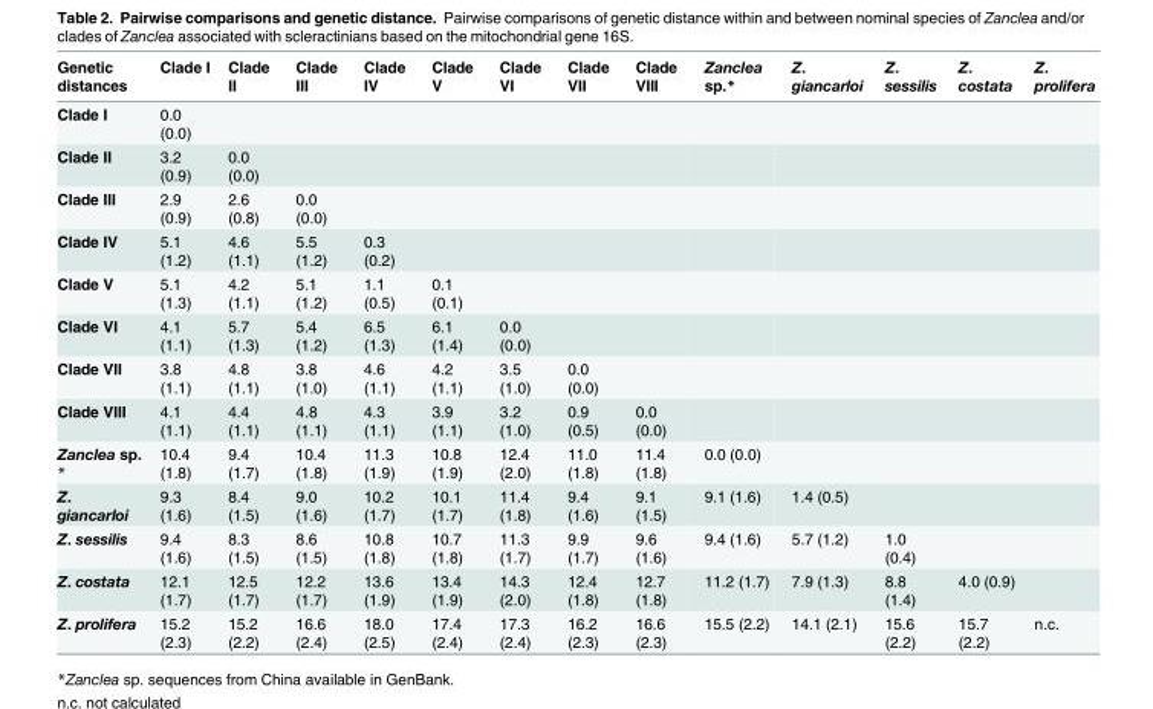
<table><thead><tr><td>Genetic distances</td><td>Clade I</td><td>Clade II</td><td>Clade III</td><td>Clade IV</td><td>Clade V</td><td>Clade VI</td><td>Clade VII</td><td>Clade VIII</td><td>Zanclea sp.*</td><td>Z. giancarloi</td><td>Z. sessilis</td><td>Z. costata</td><td>Z. prolifera</td></tr></thead><tbody><tr><td>Clade I</td><td>0.0 (0.0)</td><td></td><td></td><td></td><td></td><td></td><td></td><td></td><td></td><td></td><td></td><td></td><td></td></tr><tr><td>Clade II</td><td>3.2 (0.9)</td><td>0.0 (0.0)</td><td></td><td></td><td></td><td></td><td></td><td></td><td></td><td></td><td></td><td></td><td></td></tr><tr><td>Clade III</td><td>2.9 (0.9)</td><td>2.6 (0.8)</td><td>0.0 (0.0)</td><td></td><td></td><td></td><td></td><td></td><td></td><td></td><td></td><td></td><td></td></tr><tr><td>Clade IV</td><td>5.1 (1.2)</td><td>4.6 (1.1)</td><td>5.5 (1.2)</td><td>0.3 (0.2)</td><td></td><td></td><td></td><td></td><td></td><td></td><td></td><td></td><td></td></tr><tr><td>Clade V</td><td>5.1 (1.3)</td><td>4.2 (1.1)</td><td>5.1 (1.2)</td><td>1.1 (0.5)</td><td>0.1 (0.1)</td><td></td><td></td><td></td><td></td><td></td><td></td><td></td><td></td></tr><tr><td>Clade VI</td><td>4.1 (1.1)</td><td>5.7 (1.3)</td><td>5.4 (1.2)</td><td>6.5 (1.3)</td><td>6.1 (1.4)</td><td>0.0 (0.0)</td><td></td><td></td><td></td><td></td><td></td><td></td><td></td></tr><tr><td>Clade VII</td><td>3.8 (1.1)</td><td>4.8 (1.1)</td><td>3.8 (1.0)</td><td>4.6 (1.1)</td><td>4.2 (1.1)</td><td>3.5 (1.0)</td><td>0.0 (0.0)</td><td></td><td></td><td></td><td></td><td></td><td></td></tr><tr><td>Clade VIII</td><td>4.1 (1.1)</td><td>4.4 (1.1)</td><td>4.8 (1.1)</td><td>4.3 (1.1)</td><td>3.9 (1.1)</td><td>3.2 (1.0)</td><td>0.9 (0.5)</td><td>0.0 (0.0)</td><td></td><td></td><td></td><td></td><td></td></tr><tr><td>Zanclea sp. *</td><td>10.4 (1.8)</td><td>9.4 (1.7)</td><td>10.4 (1.8)</td><td>11.3 (1.9)</td><td>10.8 (1.9)</td><td>12.4 (2.0)</td><td>11.0 (1.8)</td><td>11.4 (1.8)</td><td>0.0 (0.0)</td><td></td><td></td><td></td><td></td></tr><tr><td>Z. giancarloi</td><td>9.3 (1.6)</td><td>8.4 (1.5)</td><td>9.0 (1.6)</td><td>10.2 (1.7)</td><td>10.1 (1.7)</td><td>11.4 (1.8)</td><td>9.4 (1.6)</td><td>9.1 (1.5)</td><td>9.1 (1.6)</td><td>1.4 (0.5)</td><td></td><td></td><td></td></tr><tr><td>Z. sessilis</td><td>9.4 (1.6)</td><td>8.3 (1.5)</td><td>8.6 (1.5)</td><td>10.8 (1.8)</td><td>10.7 (1.8)</td><td>11.3 (1.7)</td><td>9.9 (1.7)</td><td>9.6 (1.6)</td><td>9.4 (1.6)</td><td>5.7 (1.2)</td><td>1.0 (0.4)</td><td></td><td></td></tr><tr><td>Z. costata</td><td>12.1 (1.7)</td><td>12.5 (1.7)</td><td>12.2 (1.7)</td><td>13.6 (1.9)</td><td>13.4 (1.9)</td><td>14.3 (2.0)</td><td>12.4 (1.8)</td><td>12.7 (1.8)</td><td>11.2 (1.7)</td><td>7.9 (1.3)</td><td>8.8 (1.4)</td><td>4.0 (0.9)</td><td></td></tr><tr><td>Z. prolifera</td><td>15.2 (2.3)</td><td>15.2 (2.2)</td><td>16.6 (2.4)</td><td>18.0 (2.5)</td><td>17.4 (2.4)</td><td>17.3 (2.4)</td><td>16.2 (2.3)</td><td>16.6 (2.3)</td><td>15.5 (2.2)</td><td>14.1 (2.1)</td><td>15.6 (2.2)</td><td>15.7 (2.2)</td><td>n.c.</td></tr></tbody></table>